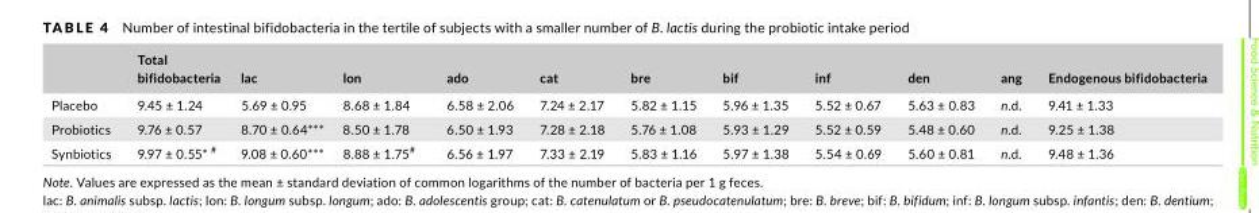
<table><thead><tr><td></td><td>Total bifidobacteria</td><td>lac</td><td>lon</td><td>ado</td><td>cat</td><td>bre</td><td>bif</td><td>inf</td><td>den</td><td>ang</td><td>Endogenous bifidobacteria</td></tr></thead><tbody><tr><td>Placebo</td><td>9.45 ± 1.24</td><td>5.69 ± 0.95</td><td>8.68 ± 1.84</td><td>6.58 ± 2.06</td><td>7.24 ± 2.17</td><td>5.82 ± 1.15</td><td>5.96 ± 1.35</td><td>5.52 ± 0.67</td><td>5.63 ± 0.83</td><td>n.d.</td><td>9.41 ± 1.33</td></tr><tr><td>Probiotics</td><td>9.76 ± 0.57</td><td>8.70 ± 0.64***</td><td>8.50 ± 1.78</td><td>6.50 ± 1.93</td><td>7.28 ± 2.18</td><td>5.76 ± 1.08</td><td>5.93 ± 1.29</td><td>5.52 ± 0.59</td><td>5.48 ± 0.60</td><td>n.d.</td><td>9.25 ± 1.38</td></tr><tr><td>Synbiotics</td><td>9.97 ± 0.55* #</td><td>9.08 ± 0.60***</td><td>8.88 ± 1.75#</td><td>6.56 ± 1.97</td><td>7.33 ± 2.19</td><td>5.83 ± 1.16</td><td>5.97 ± 1.38</td><td>5.54 ± 0.69</td><td>5.60 ± 0.81</td><td>n.d.</td><td>9.48 ± 1.36</td></tr></tbody></table>